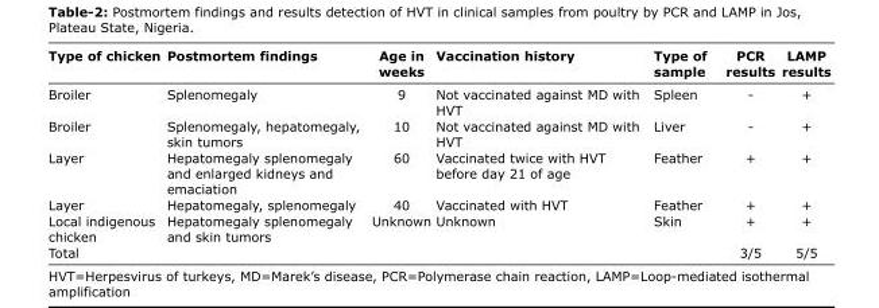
<table><thead><tr><td>Type of chicken</td><td>Postmortem findings</td><td>Age in weeks</td><td>Vaccination history</td><td>Type of sample</td><td>PCR results</td><td>LAMP results</td></tr></thead><tbody><tr><td>Broiler</td><td>Splenomegaly</td><td>9</td><td>Not vaccinated against MD with HVT</td><td>Spleen</td><td>-</td><td>+</td></tr><tr><td>Broiler</td><td>Splenomegaly, hepatomegaly, skin tumors</td><td>10</td><td>Not vaccinated against MD with HVT</td><td>Liver</td><td>-</td><td>+</td></tr><tr><td>Layer</td><td>Hepatomegaly splenomegaly and enlarged kidneys and emaciation</td><td>60</td><td>Vaccinated twice with HVT before day 21 of age</td><td>Feather</td><td>+</td><td>+</td></tr><tr><td>Layer</td><td>Hepatomegaly, splenomegaly</td><td>40</td><td>Vaccinated with HVT</td><td>Feather</td><td>+</td><td>+</td></tr><tr><td>Local indigenous chicken</td><td>Hepatomegaly splenomegaly and skin tumors</td><td>Unknown</td><td>Unknown</td><td>Skin</td><td>+</td><td>+</td></tr><tr><td>Total</td><td></td><td></td><td></td><td></td><td>3/5</td><td>5/5</td></tr></tbody></table>